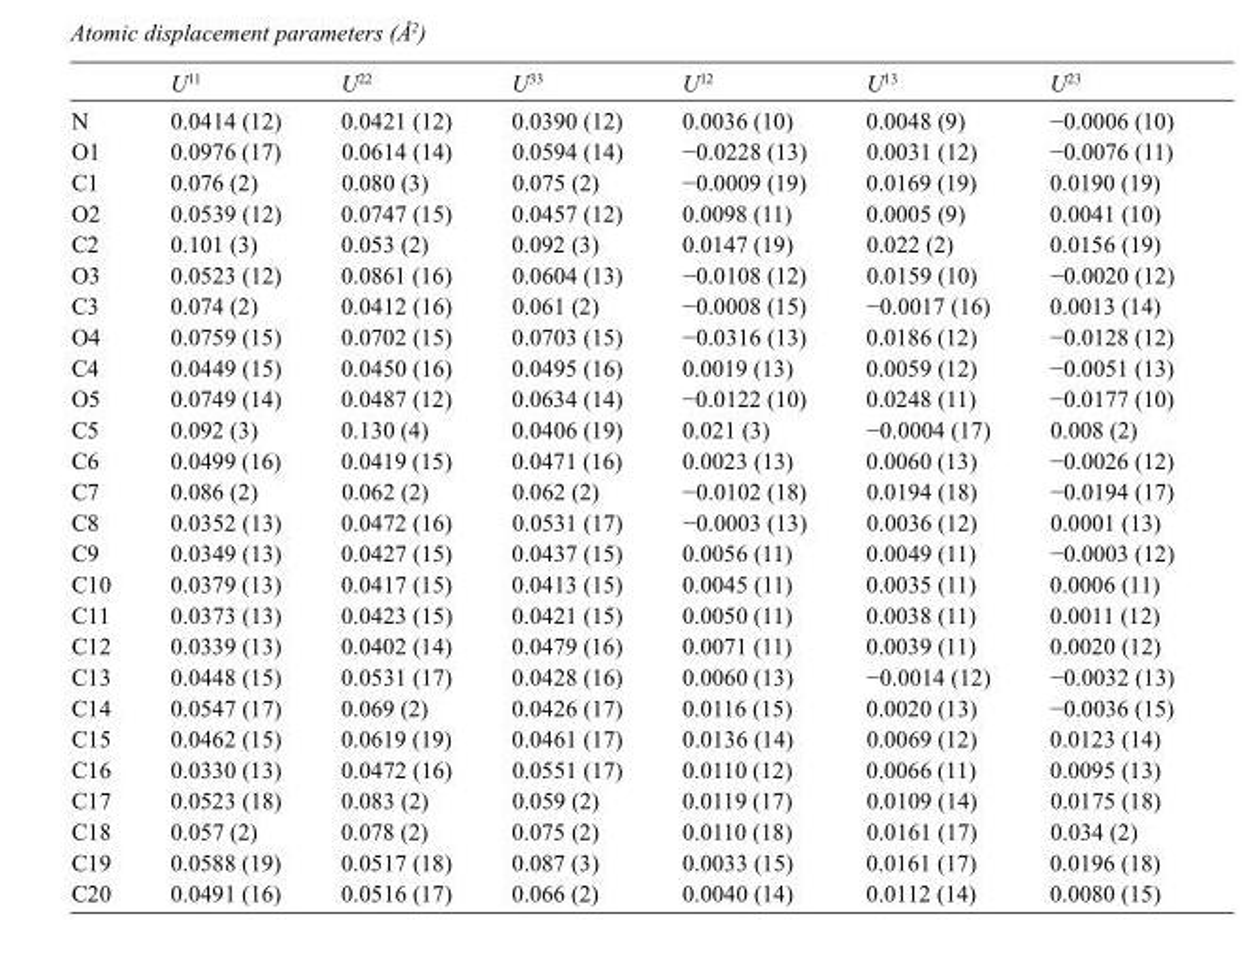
<table><thead><tr><td></td><td>U<sup>11</sup></td><td>U<sup>22</sup></td><td>U<sup>33</sup></td><td>U<sup>12</sup></td><td>U<sup>13</sup></td><td>U<sup>23</sup></td></tr></thead><tbody><tr><td>N</td><td>0.0414 (12)</td><td>0.0421 (12)</td><td>0.0390 (12)</td><td>0.0036 (10)</td><td>0.0048 (9)</td><td>−0.0006 (10)</td></tr><tr><td>O1</td><td>0.0976 (17)</td><td>0.0614 (14)</td><td>0.0594 (14)</td><td>−0.0228 (13)</td><td>0.0031 (12)</td><td>−0.0076 (11)</td></tr><tr><td>C1</td><td>0.076 (2)</td><td>0.080 (3)</td><td>0.075 (2)</td><td>−0.0009 (19)</td><td>0.0169 (19)</td><td>0.0190 (19)</td></tr><tr><td>O2</td><td>0.0539 (12)</td><td>0.0747 (15)</td><td>0.0457 (12)</td><td>0.0098 (11)</td><td>0.0005 (9)</td><td>0.0041 (10)</td></tr><tr><td>C2</td><td>0.101 (3)</td><td>0.053 (2)</td><td>0.092 (3)</td><td>0.0147 (19)</td><td>0.022 (2)</td><td>0.0156 (19)</td></tr><tr><td>O3</td><td>0.0523 (12)</td><td>0.0861 (16)</td><td>0.0604 (13)</td><td>−0.0108 (12)</td><td>0.0159 (10)</td><td>−0.0020 (12)</td></tr><tr><td>C3</td><td>0.074 (2)</td><td>0.0412 (16)</td><td>0.061 (2)</td><td>−0.0008 (15)</td><td>−0.0017 (16)</td><td>0.0013 (14)</td></tr><tr><td>O4</td><td>0.0759 (15)</td><td>0.0702 (15)</td><td>0.0703 (15)</td><td>−0.0316 (13)</td><td>0.0186 (12)</td><td>−0.0128 (12)</td></tr><tr><td>C4</td><td>0.0449 (15)</td><td>0.0450 (16)</td><td>0.0495 (16)</td><td>0.0019 (13)</td><td>0.0059 (12)</td><td>−0.0051 (13)</td></tr><tr><td>O5</td><td>0.0749 (14)</td><td>0.0487 (12)</td><td>0.0634 (14)</td><td>−0.0122 (10)</td><td>0.0248 (11)</td><td>−0.0177 (10)</td></tr><tr><td>C5</td><td>0.092 (3)</td><td>0.130 (4)</td><td>0.0406 (19)</td><td>0.021 (3)</td><td>−0.0004 (17)</td><td>0.008 (2)</td></tr><tr><td>C6</td><td>0.0499 (16)</td><td>0.0419 (15)</td><td>0.0471 (16)</td><td>0.0023 (13)</td><td>0.0060 (13)</td><td>−0.0026 (12)</td></tr><tr><td>C7</td><td>0.086 (2)</td><td>0.062 (2)</td><td>0.062 (2)</td><td>−0.0102 (18)</td><td>0.0194 (18)</td><td>−0.0194 (17)</td></tr><tr><td>C8</td><td>0.0352 (13)</td><td>0.0472 (16)</td><td>0.0531 (17)</td><td>−0.0003 (13)</td><td>0.0036 (12)</td><td>0.0001 (13)</td></tr><tr><td>C9</td><td>0.0349 (13)</td><td>0.0427 (15)</td><td>0.0437 (15)</td><td>0.0056 (11)</td><td>0.0049 (11)</td><td>−0.0003 (12)</td></tr><tr><td>C10</td><td>0.0379 (13)</td><td>0.0417 (15)</td><td>0.0413 (15)</td><td>0.0045 (11)</td><td>0.0035 (11)</td><td>0.0006 (11)</td></tr><tr><td>C11</td><td>0.0373 (13)</td><td>0.0423 (15)</td><td>0.0421 (15)</td><td>0.0050 (11)</td><td>0.0038 (11)</td><td>0.0011 (12)</td></tr><tr><td>C12</td><td>0.0339 (13)</td><td>0.0402 (14)</td><td>0.0479 (16)</td><td>0.0071 (11)</td><td>0.0039 (11)</td><td>0.0020 (12)</td></tr><tr><td>C13</td><td>0.0448 (15)</td><td>0.0531 (17)</td><td>0.0428 (16)</td><td>0.0060 (13)</td><td>−0.0014 (12)</td><td>−0.0032 (13)</td></tr><tr><td>C14</td><td>0.0547 (17)</td><td>0.069 (2)</td><td>0.0426 (17)</td><td>0.0116 (15)</td><td>0.0020 (13)</td><td>−0.0036 (15)</td></tr><tr><td>C15</td><td>0.0462 (15)</td><td>0.0619 (19)</td><td>0.0461 (17)</td><td>0.0136 (14)</td><td>0.0069 (12)</td><td>0.0123 (14)</td></tr><tr><td>C16</td><td>0.0330 (13)</td><td>0.0472 (16)</td><td>0.0551 (17)</td><td>0.0110 (12)</td><td>0.0066 (11)</td><td>0.0095 (13)</td></tr><tr><td>C17</td><td>0.0523 (18)</td><td>0.083 (2)</td><td>0.059 (2)</td><td>0.0119 (17)</td><td>0.0109 (14)</td><td>0.0175 (18)</td></tr><tr><td>C18</td><td>0.057 (2)</td><td>0.078 (2)</td><td>0.075 (2)</td><td>0.0110 (18)</td><td>0.0161 (17)</td><td>0.034 (2)</td></tr><tr><td>C19</td><td>0.0588 (19)</td><td>0.0517 (18)</td><td>0.087 (3)</td><td>0.0033 (15)</td><td>0.0161 (17)</td><td>0.0196 (18)</td></tr><tr><td>C20</td><td>0.0491 (16)</td><td>0.0516 (17)</td><td>0.066 (2)</td><td>0.0040 (14)</td><td>0.0112 (14)</td><td>0.0080 (15)</td></tr></tbody></table>